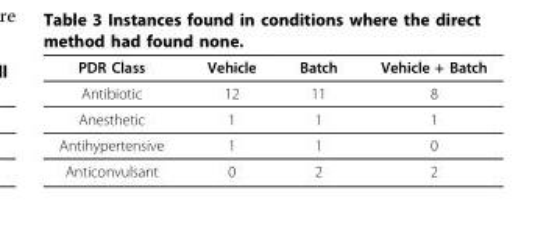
<table><thead><tr><td>PDR Class</td><td>Vehicle</td><td>Batch</td><td>Vehicle + Batch</td></tr></thead><tbody><tr><td>Antibiotic</td><td>12</td><td>11</td><td>8</td></tr><tr><td>Anesthetic</td><td>1</td><td>1</td><td>1</td></tr><tr><td>Antihypertensive</td><td>1</td><td>1</td><td>0</td></tr><tr><td>Anticonvulsant</td><td>0</td><td>2</td><td>2</td></tr></tbody></table>